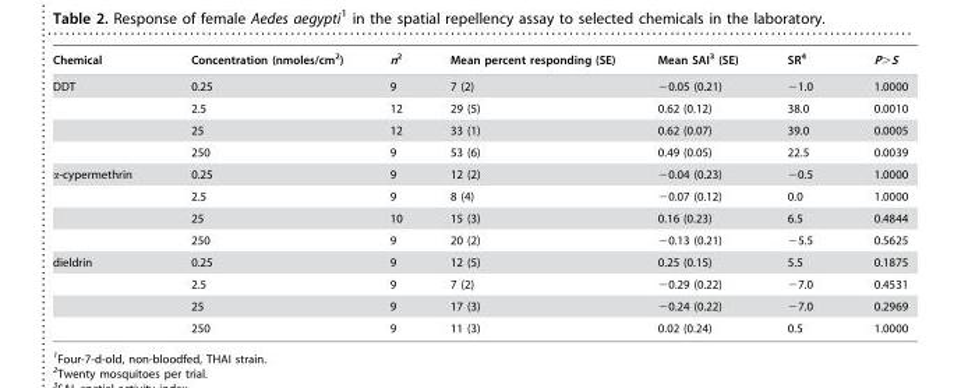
<table><thead><tr><td>Chemical</td><td>Concentration (nmoles/cm<sup>2</sup>)</td><td>n2</td><td>Mean percent responding (SE)</td><td>Mean SAI<sup>3</sup> (SE)</td><td>SR<sup>4</sup></td><td>P&gt;S</td></tr></thead><tbody><tr><td rowspan="4">DDT</td><td>0.25</td><td>9</td><td>7 (2)</td><td>−0.05 (0.21)</td><td>−1.0</td><td>1.0000</td></tr><tr><td>2.5</td><td>12</td><td>29 (5)</td><td>0.62 (0.12)</td><td>38.0</td><td>0.0010</td></tr><tr><td>25</td><td>12</td><td>33 (1)</td><td>0.62 (0.07)</td><td>39.0</td><td>0.0005</td></tr><tr><td>250</td><td>9</td><td>53 (6)</td><td>0.49 (0.05)</td><td>22.5</td><td>0.0039</td></tr><tr><td rowspan="4">α-cypermethrin</td><td>0.25</td><td>9</td><td>12 (2)</td><td>−0.04 (0.23)</td><td>−0.5</td><td>1.0000</td></tr><tr><td>2.5</td><td>9</td><td>8 (4)</td><td>−0.07 (0.12)</td><td>0.0</td><td>1.0000</td></tr><tr><td>25</td><td>10</td><td>15 (3)</td><td>0.16 (0.23)</td><td>6.5</td><td>0.4844</td></tr><tr><td>250</td><td>9</td><td>20 (2)</td><td>−0.13 (0.21)</td><td>−5.5</td><td>0.5625</td></tr><tr><td rowspan="4">dieldrin</td><td>0.25</td><td>9</td><td>12 (5)</td><td>0.25 (0.15)</td><td>5.5</td><td>0.1875</td></tr><tr><td>2.5</td><td>9</td><td>7 (2)</td><td>−0.29 (0.22)</td><td>−7.0</td><td>0.4531</td></tr><tr><td>25</td><td>9</td><td>17 (3)</td><td>−0.24 (0.22)</td><td>−7.0</td><td>0.2969</td></tr><tr><td>250</td><td>9</td><td>11 (3)</td><td>0.02 (0.24)</td><td>0.5</td><td>1.0000</td></tr></tbody></table>